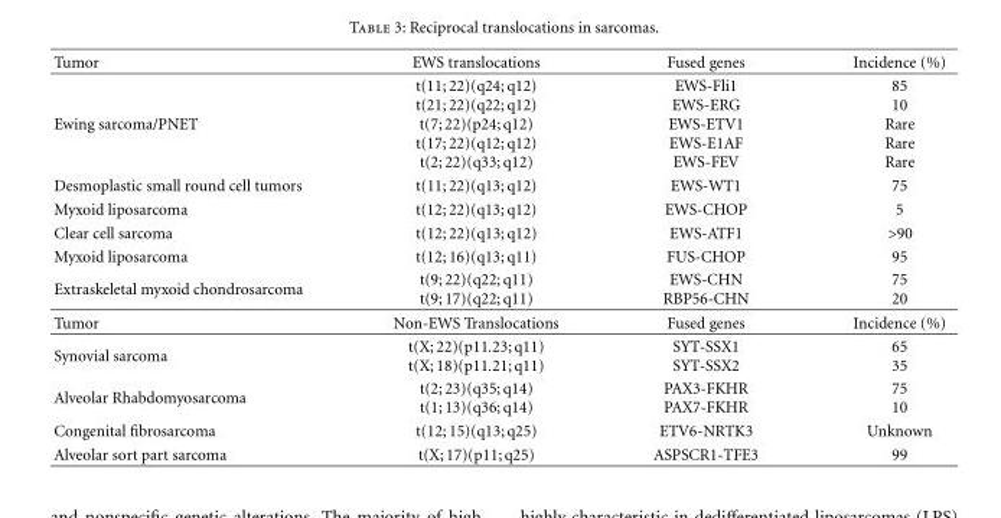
<table><thead><tr><td>Tumor</td><td>EWS translocations</td><td>Fused genes</td><td>Incidence (%)</td></tr></thead><tbody><tr><td>Ewing sarcoma/PNET</td><td>t(11;22)(q24;q12) t(21;22)(q22;q12) t(7;22)(p24;q12) t(17;22)(q12;q12) t(2;22)(q33;q12)</td><td>EWS-Fli1 EWS-ERG EWS-ETV1 EWS-E1AF EWS-FEV</td><td>85 10 Rare Rare Rare</td></tr><tr><td>Desmoplastic small round cell tumors</td><td>t(11;22)(q13;q12)</td><td>EWS-WT1</td><td>75</td></tr><tr><td>Myxoid liposarcoma</td><td>t(12;22)(q13;q12)</td><td>EWS-CHOP</td><td>5</td></tr><tr><td>Clear cell sarcoma</td><td>t(12;22)(q13;q12)</td><td>EWS-ATF1</td><td>&gt;90</td></tr><tr><td>Myxoid liposarcoma</td><td>t(12;16)(q13;q11)</td><td>FUS-CHOP</td><td>95</td></tr><tr><td>Extraskeletal myxoid chondrosarcoma</td><td>t(9;22)(q22;q11) t(9;17)(q22;q11)</td><td>EWS-CHN RBP56-CHN</td><td>75 20</td></tr><tr><td>Tumor</td><td>Non-EWS Translocations</td><td>Fused genes</td><td>Incidence (%)</td></tr><tr><td>Synovial sarcoma</td><td>t(X;22)(p11.23;q11) t(X;18)(p11.21;q11)</td><td>SYT-SSX1 SYT-SSX2</td><td>65 35</td></tr><tr><td>Alveolar Rhabdomyosarcoma</td><td>t(2;23)(q35;q14) t(1;13)(q36;q14)</td><td>PAX3-FKHR PAX7-FKHR</td><td>75 10</td></tr><tr><td>Congenital fibrosarcoma</td><td>t(12;15)(q13;q25)</td><td>ETV6-NRTK3</td><td>Unknown</td></tr><tr><td>Alveolar sort part sarcoma</td><td>t(X;17)(p11;q25)</td><td>ASPSCR1-TFE3</td><td>99</td></tr></tbody></table>